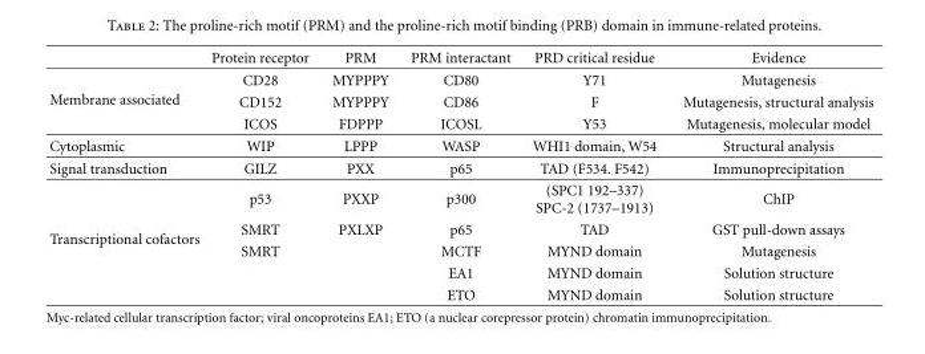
<table><thead><tr><td></td><td>Protein receptor</td><td>PRM</td><td>PRM interactant</td><td>PRD critical residue</td><td>Evidence</td></tr></thead><tbody><tr><td rowspan="3">Membrane associated</td><td>CD28</td><td>MYPPPY</td><td>CD80</td><td>Y71</td><td>Mutagenesis</td></tr><tr><td>CD152</td><td>MYPPPY</td><td>CD86</td><td>F</td><td>Mutagenesis, structural analysis</td></tr><tr><td>ICOS</td><td>FDPPP</td><td>ICOSL</td><td>Y53</td><td>Mutagenesis, molecular model</td></tr><tr><td>Cytoplasmic</td><td>WIP</td><td>LPPP</td><td>WASP</td><td>WHI1 domain, W54</td><td>Structural analysis</td></tr><tr><td>Signal transduction</td><td>GILZ</td><td>PXX</td><td>p65</td><td>TAD (F534. F542)</td><td>Immunoprecipitation</td></tr><tr><td rowspan="5">Transcriptional cofactors</td><td>p53</td><td>PXXP</td><td>p300</td><td>(SPC1 192–337) SPC-2 (1737–1913)</td><td>ChIP</td></tr><tr><td>SMRT</td><td>PXLXP</td><td>p65</td><td>TAD</td><td>GST pull-down assays</td></tr><tr><td>SMRT</td><td></td><td>MCTF</td><td>MYND domain</td><td>Mutagenesis</td></tr><tr><td></td><td></td><td>EA1</td><td>MYND domain</td><td>Solution structure</td></tr><tr><td></td><td></td><td>ETO</td><td>MYND domain</td><td>Solution structure</td></tr></tbody></table>